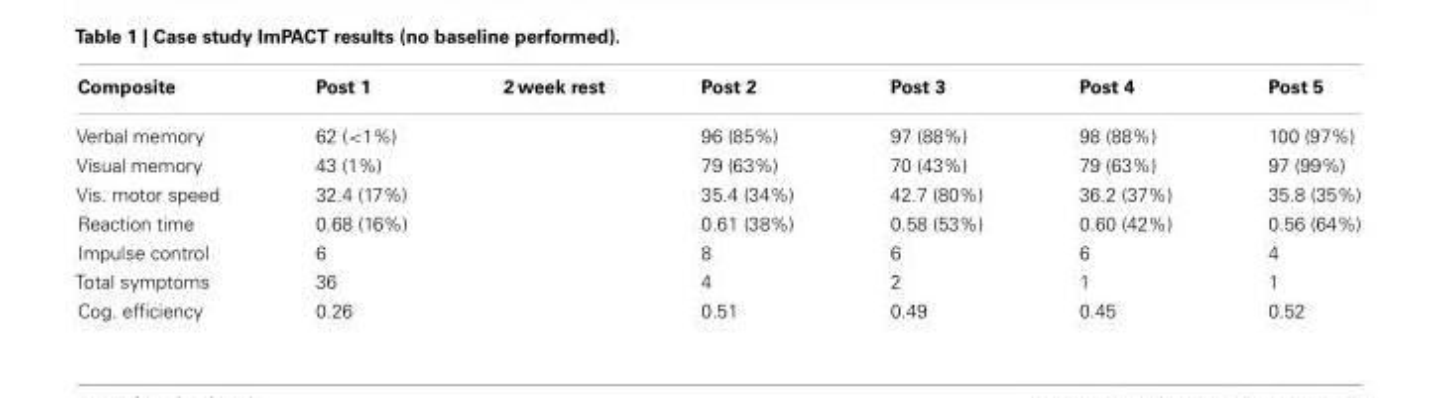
<table><thead><tr><td>Composite</td><td>Post 1</td><td>2 week rest</td><td>Post 2</td><td>Post 3</td><td>Post 4</td><td>Post 5</td></tr></thead><tbody><tr><td>Verbal memory</td><td>62 (&lt;1%)</td><td></td><td>96 (85%)</td><td>97 (88%)</td><td>98 (88%)</td><td>100 (97%)</td></tr><tr><td>Visual memory</td><td>43 (1%)</td><td></td><td>79 (63%)</td><td>70 (43%)</td><td>79 (63%)</td><td>97 (99%)</td></tr><tr><td>Vis. motor speed</td><td>32.4 (17%)</td><td></td><td>35.4 (34%)</td><td>42.7 (80%)</td><td>36.2 (37%)</td><td>35.8 (35%)</td></tr><tr><td>Reaction time</td><td>0.68 (16%)</td><td></td><td>0.61 (38%)</td><td>0.58 (53%)</td><td>0.60 (42%)</td><td>0.56 (64%)</td></tr><tr><td>Impulse control</td><td>6</td><td></td><td>8</td><td>6</td><td>6</td><td>4</td></tr><tr><td>Total symptoms</td><td>36</td><td></td><td>4</td><td>2</td><td>1</td><td>1</td></tr><tr><td>Cog. efficiency</td><td>0.26</td><td></td><td>0.51</td><td>0.49</td><td>0.45</td><td>0.52</td></tr></tbody></table>